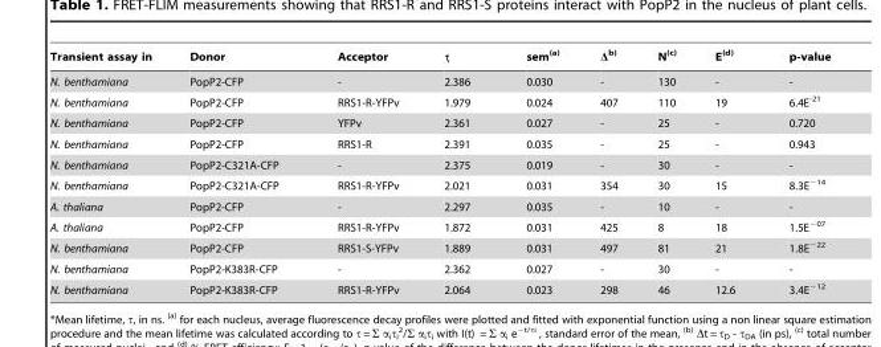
<table><thead><tr><td>Transient assay in</td><td>Donor</td><td>Acceptor</td><td>τ.</td><td>sem<sup>(a)</sup></td><td>Δ<sup>b)</sup></td><td>N<sup>(c)</sup></td><td>E<sup>(d)</sup></td><td>p-value</td></tr></thead><tbody><tr><td>N. benthamiana</td><td>PopP2-CFP</td><td>-</td><td>2.386</td><td>0.030</td><td>-</td><td>130</td><td>-</td><td>-</td></tr><tr><td>N. benthamiana</td><td>PopP2-CFP</td><td>RRS1-R-YFPv</td><td>1.979</td><td>0.024</td><td>407</td><td>110</td><td>19</td><td>6.4E<sup>-21</sup></td></tr><tr><td>N. benthamiana</td><td>PopP2-CFP</td><td>YFPv</td><td>2.361</td><td>0.027</td><td>-</td><td>25</td><td>-</td><td>0.720</td></tr><tr><td>N. benthamiana</td><td>PopP2-CFP</td><td>RRS1-R</td><td>2.391</td><td>0.035</td><td>-</td><td>25</td><td>-</td><td>0.943</td></tr><tr><td>N. benthamiana</td><td>PopP2-C321A-CFP</td><td>-</td><td>2.375</td><td>0.019</td><td>-</td><td>30</td><td>-</td><td>-</td></tr><tr><td>N. benthamiana</td><td>PopP2-C321A-CFP</td><td>RRS1-R-YFPv</td><td>2.021</td><td>0.031</td><td>354</td><td>30</td><td>15</td><td>8.3E<sup>−14</sup></td></tr><tr><td>A. thaliana</td><td>PopP2-CFP</td><td>-</td><td>2.297</td><td>0.035</td><td>-</td><td>10</td><td>-</td><td>-</td></tr><tr><td>A. thaliana</td><td>PopP2-CFP</td><td>RRS1-R-YFPv</td><td>1.872</td><td>0.031</td><td>425</td><td>8</td><td>18</td><td>1.5E<sup>−07</sup></td></tr><tr><td>N. benthamiana</td><td>PopP2-CFP</td><td>RRS1-S-YFPv</td><td>1.889</td><td>0.031</td><td>497</td><td>81</td><td>21</td><td>1.8E<sup>−22</sup></td></tr><tr><td>N. benthamiana</td><td>PopP2-K383R-CFP</td><td>-</td><td>2.362</td><td>0.027</td><td>-</td><td>30</td><td>-</td><td>-</td></tr><tr><td>N. benthamiana</td><td>PopP2-K383R-CFP</td><td>RRS1-R-YFPv</td><td>2.064</td><td>0.023</td><td>298</td><td>46</td><td>12.6</td><td>3.4E<sup>−12</sup></td></tr></tbody></table>